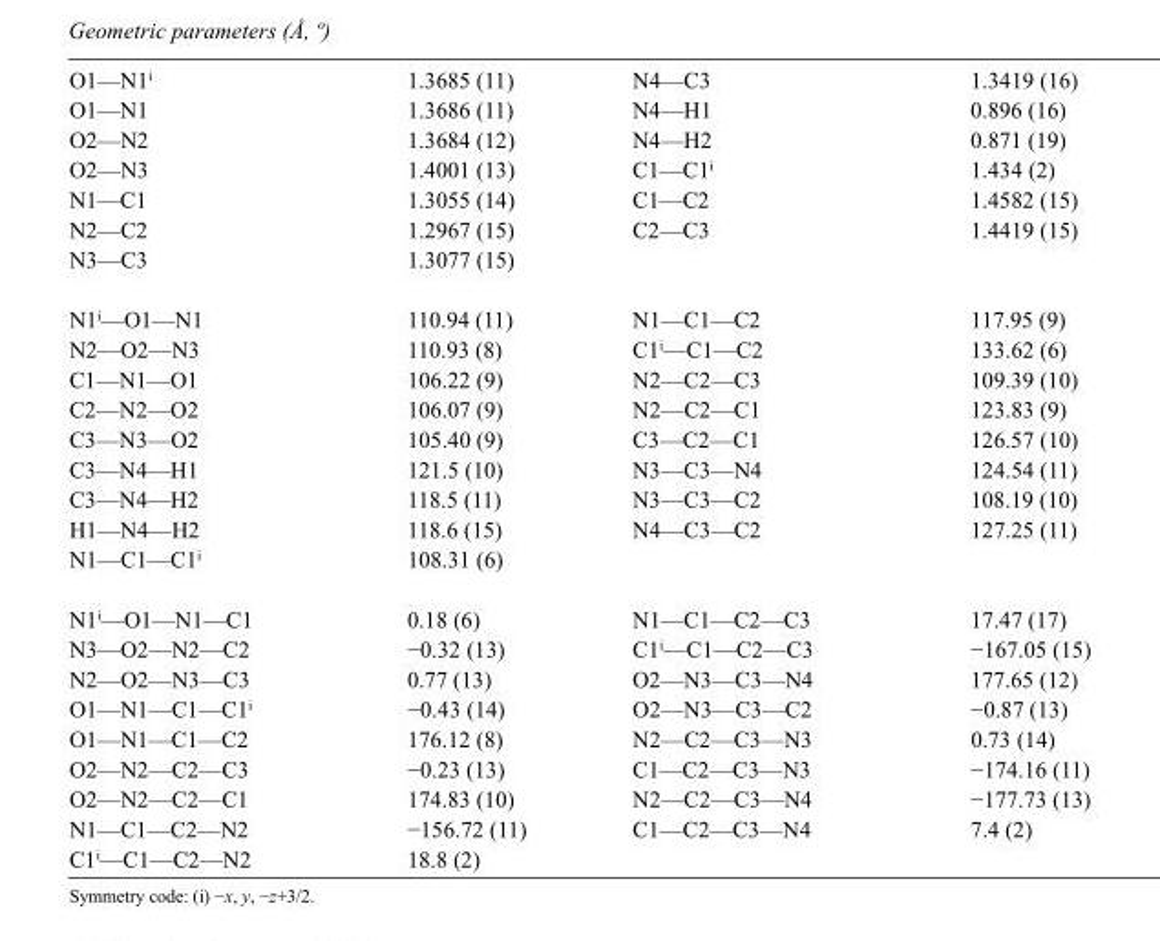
<table><tbody><tr><td>O1—N1<sup>i</sup></td><td>1.3685 (11)</td><td>N4—C3</td><td>1.3419 (16)</td></tr><tr><td>O1—N1</td><td>1.3686 (11)</td><td>N4—H1</td><td>0.896 (16)</td></tr><tr><td>O2—N2</td><td>1.3684 (12)</td><td>N4—H2</td><td>0.871 (19)</td></tr><tr><td>O2—N3</td><td>1.4001 (13)</td><td>C1—C1<sup>i</sup></td><td>1.434 (2)</td></tr><tr><td>N1—C1</td><td>1.3055 (14)</td><td>C1—C2</td><td>1.4582 (15)</td></tr><tr><td>N2—C2</td><td>1.2967 (15)</td><td>C2—C3</td><td>1.4419 (15)</td></tr><tr><td>N3—C3</td><td>1.3077 (15)</td><td></td><td></td></tr><tr><td>N1<sup>i</sup>—O1—N1</td><td>110.94 (11)</td><td>N1—C1—C2</td><td>117.95 (9)</td></tr><tr><td>N2—O2—N3</td><td>110.93 (8)</td><td>C1<sup>i</sup>—C1—C2</td><td>133.62 (6)</td></tr><tr><td>C1—N1—O1</td><td>106.22 (9)</td><td>N2—C2—C3</td><td>109.39 (10)</td></tr><tr><td>C2—N2—O2</td><td>106.07 (9)</td><td>N2—C2—C1</td><td>123.83 (9)</td></tr><tr><td>C3—N3—O2</td><td>105.40 (9)</td><td>C3—C2—C1</td><td>126.57 (10)</td></tr><tr><td>C3—N4—H1</td><td>121.5 (10)</td><td>N3—C3—N4</td><td>124.54 (11)</td></tr><tr><td>C3—N4—H2</td><td>118.5 (11)</td><td>N3—C3—C2</td><td>108.19 (10)</td></tr><tr><td>H1—N4—H2</td><td>118.6 (15)</td><td>N4—C3—C2</td><td>127.25 (11)</td></tr><tr><td>N1—C1—C1<sup>i</sup></td><td>108.31 (6)</td><td></td><td></td></tr><tr><td>N1<sup>i</sup>—O1—N1—C1</td><td>0.18 (6)</td><td>N1—C1—C2—C3</td><td>17.47 (17)</td></tr><tr><td>N3—O2—N2—C2</td><td>−0.32 (13)</td><td>C1<sup>i</sup>—C1—C2—C3</td><td>−167.05 (15)</td></tr><tr><td>N2—O2—N3—C3</td><td>0.77 (13)</td><td>O2—N3—C3—N4</td><td>177.65 (12)</td></tr><tr><td>O1—N1—C1—C1<sup>i</sup></td><td>−0.43 (14)</td><td>O2—N3—C3—C2</td><td>−0.87 (13)</td></tr><tr><td>O1—N1—C1—C2</td><td>176.12 (8)</td><td>N2—C2—C3—N3</td><td>0.73 (14)</td></tr><tr><td>O2—N2—C2—C3</td><td>−0.23 (13)</td><td>C1—C2—C3—N3</td><td>−174.16 (11)</td></tr><tr><td>O2—N2—C2—C1</td><td>174.83 (10)</td><td>N2—C2—C3—N4</td><td>−177.73 (13)</td></tr><tr><td>N1—C1—C2—N2</td><td>−156.72 (11)</td><td>C1—C2—C3—N4</td><td>7.4 (2)</td></tr><tr><td>C1<sup>i</sup>—C1—C2—N2</td><td>18.8 (2)</td><td></td><td></td></tr></tbody></table>